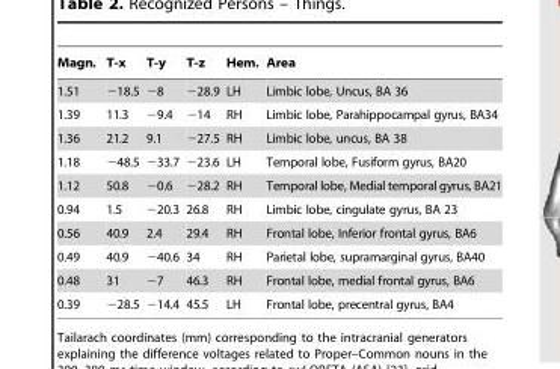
<table><thead><tr><td>Magn.</td><td>T-x</td><td>T-y</td><td>T-z</td><td>Hem.</td><td>Area</td></tr></thead><tbody><tr><td>1.51</td><td>−18.5</td><td>−8</td><td>−28.9</td><td>LH</td><td>Limbic lobe, Uncus, BA 36</td></tr><tr><td>1.39</td><td>11.3</td><td>−9.4</td><td>−14</td><td>RH</td><td>Limbic lobe, Parahippocampal gyrus, BA34</td></tr><tr><td>1.36</td><td>21.2</td><td>9.1</td><td>−27.5</td><td>RH</td><td>Limbic lobe, uncus, BA 38</td></tr><tr><td>1.18</td><td>−48.5</td><td>−33.7</td><td>−23.6</td><td>LH</td><td>Temporal lobe, Fusiform gyrus, BA20</td></tr><tr><td>1.12</td><td>50.8</td><td>−0.6</td><td>−28.2</td><td>RH</td><td>Temporal lobe, Medial temporal gyrus, BA21</td></tr><tr><td>0.94</td><td>1.5</td><td>−20.3</td><td>26.8</td><td>RH</td><td>Limbic lobe, cingulate gyrus, BA 23</td></tr><tr><td>0.56</td><td>40.9</td><td>2.4</td><td>29.4</td><td>RH</td><td>Frontal lobe, Inferior frontal gyrus, BA6</td></tr><tr><td>0.49</td><td>40.9</td><td>−40.6</td><td>34</td><td>RH</td><td>Parietal lobe, supramarginal gyrus, BA40</td></tr><tr><td>0.48</td><td>31</td><td>−7</td><td>46.3</td><td>RH</td><td>Frontal lobe, medial frontal gyrus, BA6</td></tr><tr><td>0.39</td><td>−28.5</td><td>−14.4</td><td>45.5</td><td>LH</td><td>Frontal lobe, precentral gyrus, BA4</td></tr></tbody></table>